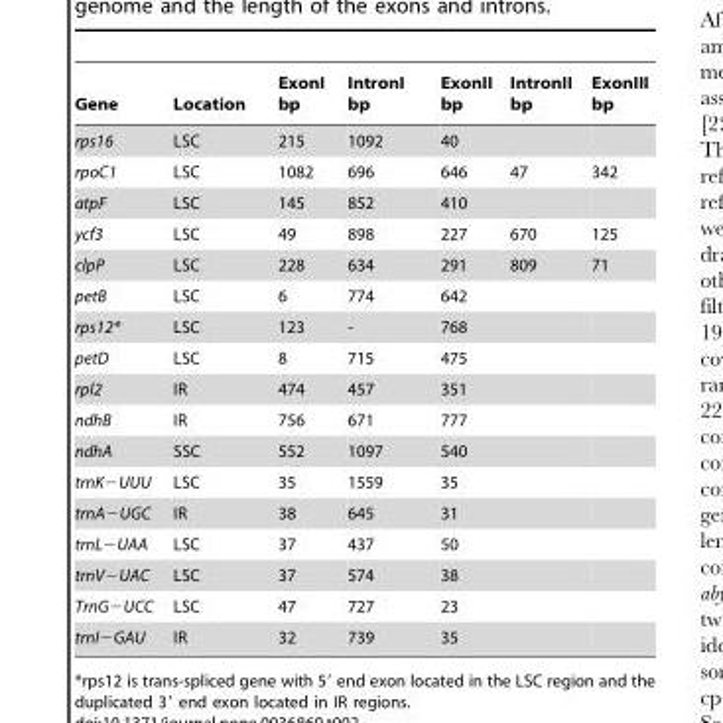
<table><thead><tr><td>Gene</td><td>Location</td><td>ExonI bp</td><td>IntronI bp</td><td>ExonII bp</td><td>IntronII bp</td><td>ExonIII bp</td></tr></thead><tbody><tr><td>rps16</td><td>LSC</td><td>215</td><td>1092</td><td>40</td><td></td><td></td></tr><tr><td>rpoC1</td><td>LSC</td><td>1082</td><td>696</td><td>646</td><td>47</td><td>342</td></tr><tr><td>atpF</td><td>LSC</td><td>145</td><td>852</td><td>410</td><td></td><td></td></tr><tr><td>ycf3</td><td>LSC</td><td>49</td><td>898</td><td>227</td><td>670</td><td>125</td></tr><tr><td>clpP</td><td>LSC</td><td>228</td><td>634</td><td>291</td><td>809</td><td>71</td></tr><tr><td>petB</td><td>LSC</td><td>6</td><td>774</td><td>642</td><td></td><td></td></tr><tr><td>rps12*</td><td>LSC</td><td>123</td><td>-</td><td>768</td><td></td><td></td></tr><tr><td>petD</td><td>LSC</td><td>8</td><td>715</td><td>475</td><td></td><td></td></tr><tr><td>rpl2</td><td>IR</td><td>474</td><td>457</td><td>351</td><td></td><td></td></tr><tr><td>ndhB</td><td>IR</td><td>756</td><td>671</td><td>777</td><td></td><td></td></tr><tr><td>ndhA</td><td>SSC</td><td>552</td><td>1097</td><td>540</td><td></td><td></td></tr><tr><td>trnK−UUU</td><td>LSC</td><td>35</td><td>1559</td><td>35</td><td></td><td></td></tr><tr><td>trnA−UGC</td><td>IR</td><td>38</td><td>645</td><td>31</td><td></td><td></td></tr><tr><td>trnL−UAA</td><td>LSC</td><td>37</td><td>437</td><td>50</td><td></td><td></td></tr><tr><td>trnV−UAC</td><td>LSC</td><td>37</td><td>574</td><td>38</td><td></td><td></td></tr><tr><td>TrnG−UCC</td><td>LSC</td><td>47</td><td>727</td><td>23</td><td></td><td></td></tr><tr><td>trnI−GAU</td><td>IR</td><td>32</td><td>739</td><td>35</td><td></td><td></td></tr></tbody></table>